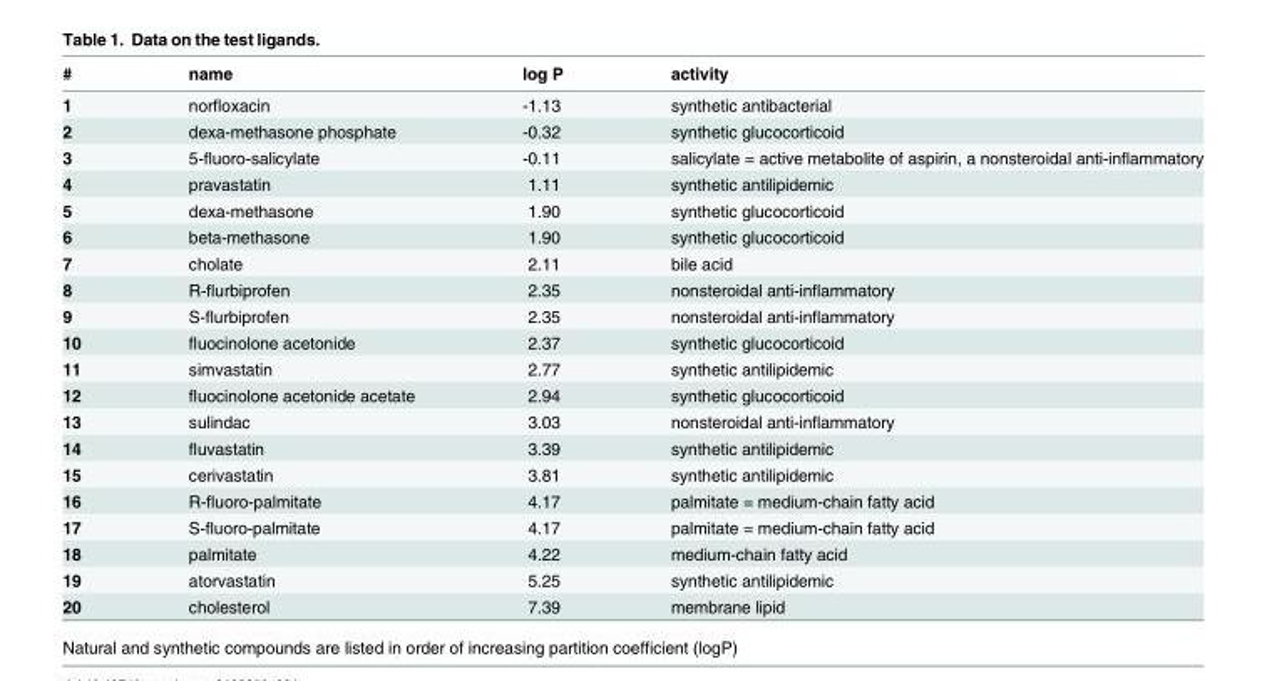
<table><thead><tr><td>#</td><td>name</td><td>log P</td><td>activity</td></tr></thead><tbody><tr><td>1</td><td>norfloxacin</td><td>-1.13</td><td>synthetic antibacterial</td></tr><tr><td>2</td><td>dexa-methasone phosphate</td><td>-0.32</td><td>synthetic glucocorticoid</td></tr><tr><td>3</td><td>5-fluoro-salicylate</td><td>-0.11</td><td>salicylate = active metabolite of aspirin, a nonsteroidal anti-inflammatory</td></tr><tr><td>4</td><td>pravastatin</td><td>1.11</td><td>synthetic antilipidemic</td></tr><tr><td>5</td><td>dexa-methasone</td><td>1.90</td><td>synthetic glucocorticoid</td></tr><tr><td>6</td><td>beta-methasone</td><td>1.90</td><td>synthetic glucocorticoid</td></tr><tr><td>7</td><td>cholate</td><td>2.11</td><td>bile acid</td></tr><tr><td>8</td><td>R-flurbiprofen</td><td>2.35</td><td>nonsteroidal anti-inflammatory</td></tr><tr><td>9</td><td>S-flurbiprofen</td><td>2.35</td><td>nonsteroidal anti-inflammatory</td></tr><tr><td>10</td><td>fluocinolone acetonide</td><td>2.37</td><td>synthetic glucocorticoid</td></tr><tr><td>11</td><td>simvastatin</td><td>2.77</td><td>synthetic antilipidemic</td></tr><tr><td>12</td><td>fluocinolone acetonide acetate</td><td>2.94</td><td>synthetic glucocorticoid</td></tr><tr><td>13</td><td>sulindac</td><td>3.03</td><td>nonsteroidal anti-inflammatory</td></tr><tr><td>14</td><td>fluvastatin</td><td>3.39</td><td>synthetic antilipidemic</td></tr><tr><td>15</td><td>cerivastatin</td><td>3.81</td><td>synthetic antilipidemic</td></tr><tr><td>16</td><td>R-fluoro-palmitate</td><td>4.17</td><td>palmitate = medium-chain fatty acid</td></tr><tr><td>17</td><td>S-fluoro-palmitate</td><td>4.17</td><td>palmitate = medium-chain fatty acid</td></tr><tr><td>18</td><td>palmitate</td><td>4.22</td><td>medium-chain fatty acid</td></tr><tr><td>19</td><td>atorvastatin</td><td>5.25</td><td>synthetic antilipidemic</td></tr><tr><td>20</td><td>cholesterol</td><td>7.39</td><td>membrane lipid</td></tr></tbody></table>